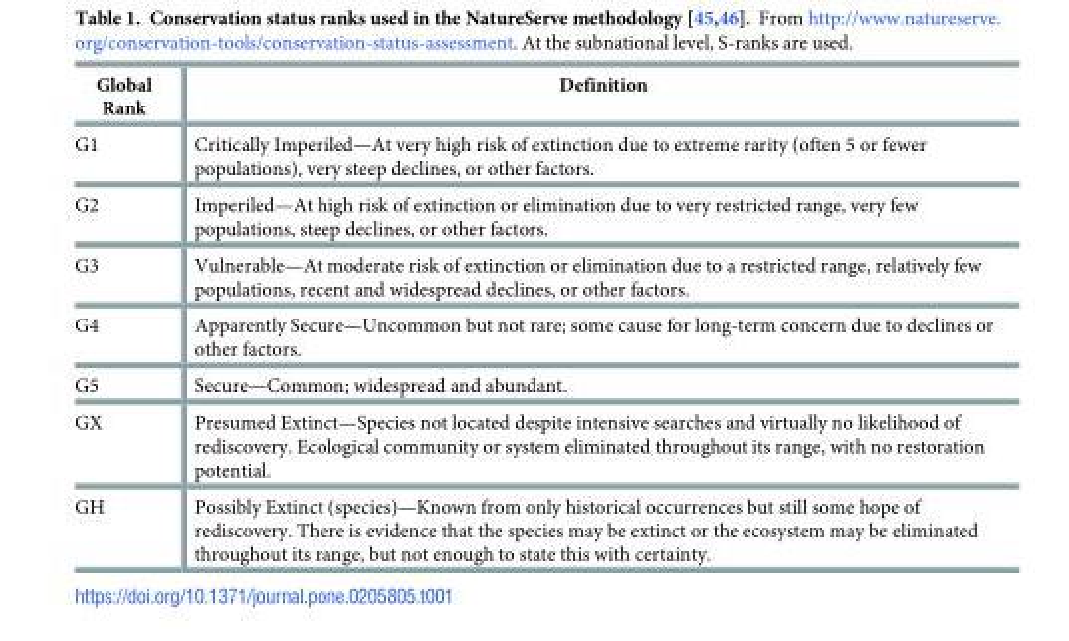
<table><thead><tr><td>Global Rank</td><td>Definition</td></tr></thead><tbody><tr><td>G1</td><td>Critically Imperiled—At very high risk of extinction due to extreme rarity (often 5 or fewer populations), very steep declines, or other factors.</td></tr><tr><td>G2</td><td>Imperiled—At high risk of extinction or elimination due to very restricted range, very few populations, steep declines, or other factors.</td></tr><tr><td>G3</td><td>Vulnerable—At moderate risk of extinction or elimination due to a restricted range, relatively few populations, recent and widespread declines, or other factors.</td></tr><tr><td>G4</td><td>Apparently Secure—Uncommon but not rare; some cause for long-term concern due to declines or other factors.</td></tr><tr><td>G5</td><td>Secure—Common; widespread and abundant.</td></tr><tr><td>GX</td><td>Presumed Extinct—Species not located despite intensive searches and virtually no likelihood of rediscovery. Ecological community or system eliminated throughout its range, with no restoration potential.</td></tr><tr><td>GH</td><td>Possibly Extinct (species)—Known from only historical occurrences but still some hope of rediscovery. There is evidence that the species may be extinct or the ecosystem may be eliminated throughout its range, but not enough to state this with certainty.</td></tr></tbody></table>